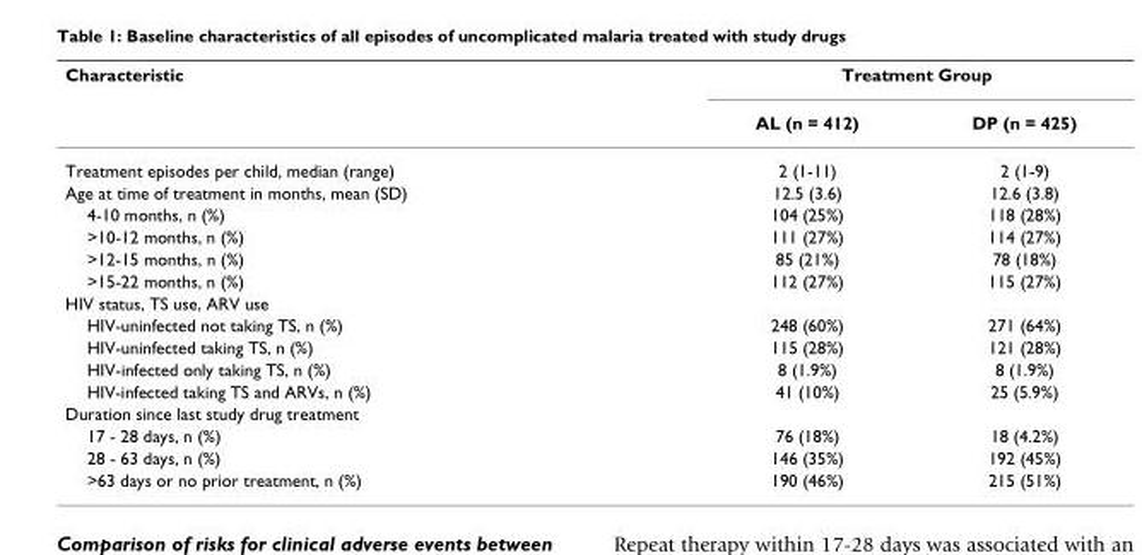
<table><thead><tr><td rowspan="2">Characteristic</td><td colspan="2">Treatment Group</td></tr><tr><td>AL (n = 412)</td><td>DP (n = 425)</td></tr></thead><tbody><tr><td>Treatment episodes per child, median (range)</td><td>2 (1-11)</td><td>2 (1-9)</td></tr><tr><td>Age at time of treatment in months, mean (SD)</td><td>12.5 (3.6)</td><td>12.6 (3.8)</td></tr><tr><td>4-10 months, n (%)</td><td>104 (25%)</td><td>118 (28%)</td></tr><tr><td>&gt;10-12 months, n (%)</td><td>111 (27%)</td><td>114 (27%)</td></tr><tr><td>&gt;12-15 months, n (%)</td><td>85 (21%)</td><td>78 (18%)</td></tr><tr><td>&gt;15-22 months, n (%)</td><td>112 (27%)</td><td>115 (27%)</td></tr><tr><td colspan="3">HIV status, TS use, ARV use</td></tr><tr><td>HIV-uninfected not taking TS, n (%)</td><td>248 (60%)</td><td>271 (64%)</td></tr><tr><td>HIV-uninfected taking TS, n (%)</td><td>115 (28%)</td><td>121 (28%)</td></tr><tr><td>HIV-infected only taking TS, n (%)</td><td>8 (1.9%)</td><td>8 (1.9%)</td></tr><tr><td>HIV-infected taking TS and ARVs, n (%)</td><td>41 (10%)</td><td>25 (5.9%)</td></tr><tr><td colspan="3">Duration since last study drug treatment</td></tr><tr><td>17 - 28 days, n (%)</td><td>76 (18%)</td><td>18 (4.2%)</td></tr><tr><td>28 - 63 days, n (%)</td><td>146 (35%)</td><td>192 (45%)</td></tr><tr><td>&gt;63 days or no prior treatment, n (%)</td><td>190 (46%)</td><td>215 (51%)</td></tr></tbody></table>